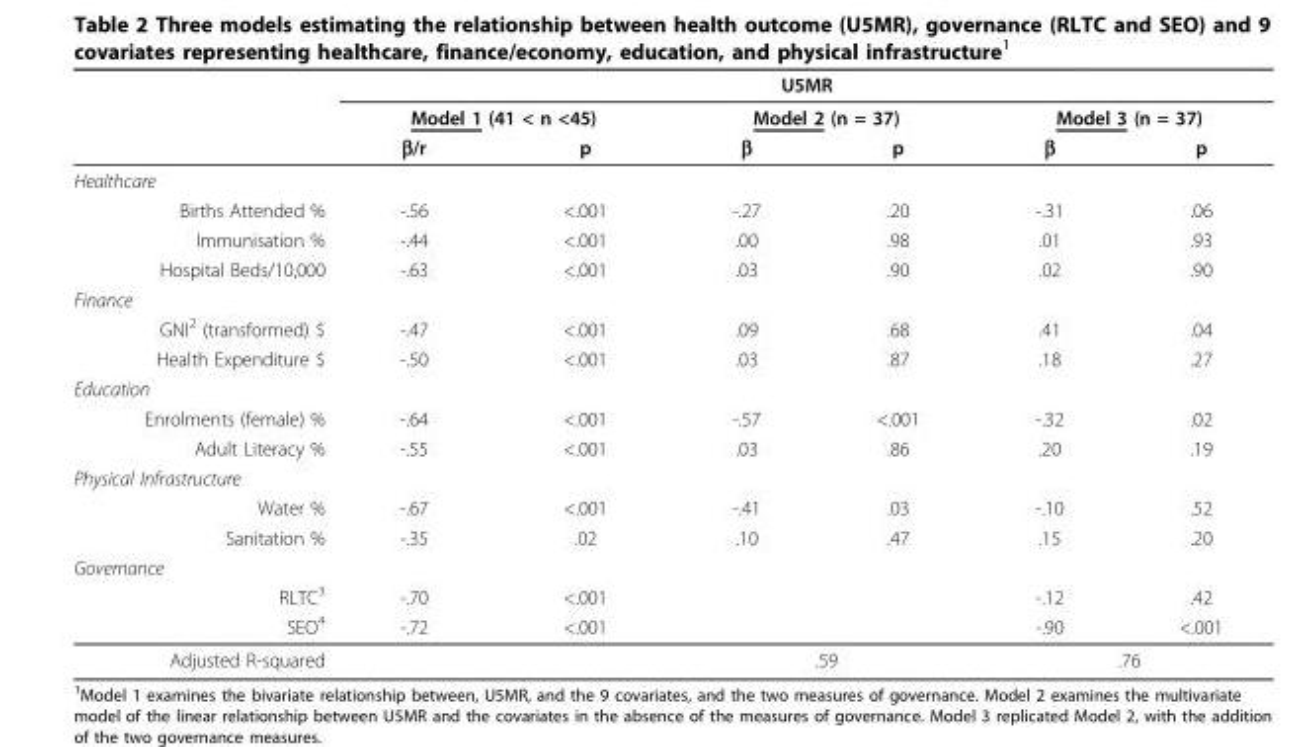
<table><thead><tr><td rowspan="3"></td><td colspan="6">U5MR</td></tr><tr><td colspan="2">Model 1 (41 &lt; n &lt;45)</td><td colspan="2">Model 2 (n = 37)</td><td colspan="2">Model 3 (n = 37)</td></tr><tr><td>β/r</td><td>p</td><td>β</td><td>p</td><td>β</td><td>p</td></tr></thead><tbody><tr><td colspan="7">Healthcare</td></tr><tr><td>Births Attended %</td><td>-.56</td><td>&lt;.001</td><td>-.27</td><td>.20</td><td>-.31</td><td>.06</td></tr><tr><td>Immunisation %</td><td>-.44</td><td>&lt;.001</td><td>.00</td><td>.98</td><td>.01</td><td>.93</td></tr><tr><td>Hospital Beds/10,000</td><td>-.63</td><td>&lt;.001</td><td>.03</td><td>.90</td><td>.02</td><td>.90</td></tr><tr><td colspan="7">Finance</td></tr><tr><td>GNI<sup>2</sup> (transformed) $</td><td>-.47</td><td>&lt;.001</td><td>.09</td><td>.68</td><td>.41</td><td>.04</td></tr><tr><td>Health Expenditure $</td><td>-.50</td><td>&lt;.001</td><td>.03</td><td>.87</td><td>.18</td><td>.27</td></tr><tr><td colspan="7">Education</td></tr><tr><td>Enrolments (female) %</td><td>-.64</td><td>&lt;.001</td><td>-.57</td><td>&lt;.001</td><td>-.32</td><td>.02</td></tr><tr><td>Adult Literacy %</td><td>-.55</td><td>&lt;.001</td><td>.03</td><td>.86</td><td>.20</td><td>.19</td></tr><tr><td colspan="7">Physical Infrastructure</td></tr><tr><td>Water %</td><td>-.67</td><td>&lt;.001</td><td>-.41</td><td>.03</td><td>-.10</td><td>.52</td></tr><tr><td>Sanitation %</td><td>-.35</td><td>.02</td><td>.10</td><td>.47</td><td>.15</td><td>.20</td></tr><tr><td colspan="7">Governance</td></tr><tr><td>RLTC<sup>3</sup></td><td>-.70</td><td>&lt;.001</td><td></td><td></td><td>-.12</td><td>.42</td></tr><tr><td>SEO<sup>4</sup></td><td>-.72</td><td>&lt;.001</td><td></td><td></td><td>-.90</td><td>&lt;.001</td></tr><tr><td>Adjusted R-squared</td><td></td><td></td><td colspan="2">.59</td><td colspan="2">.76</td></tr></tbody></table>